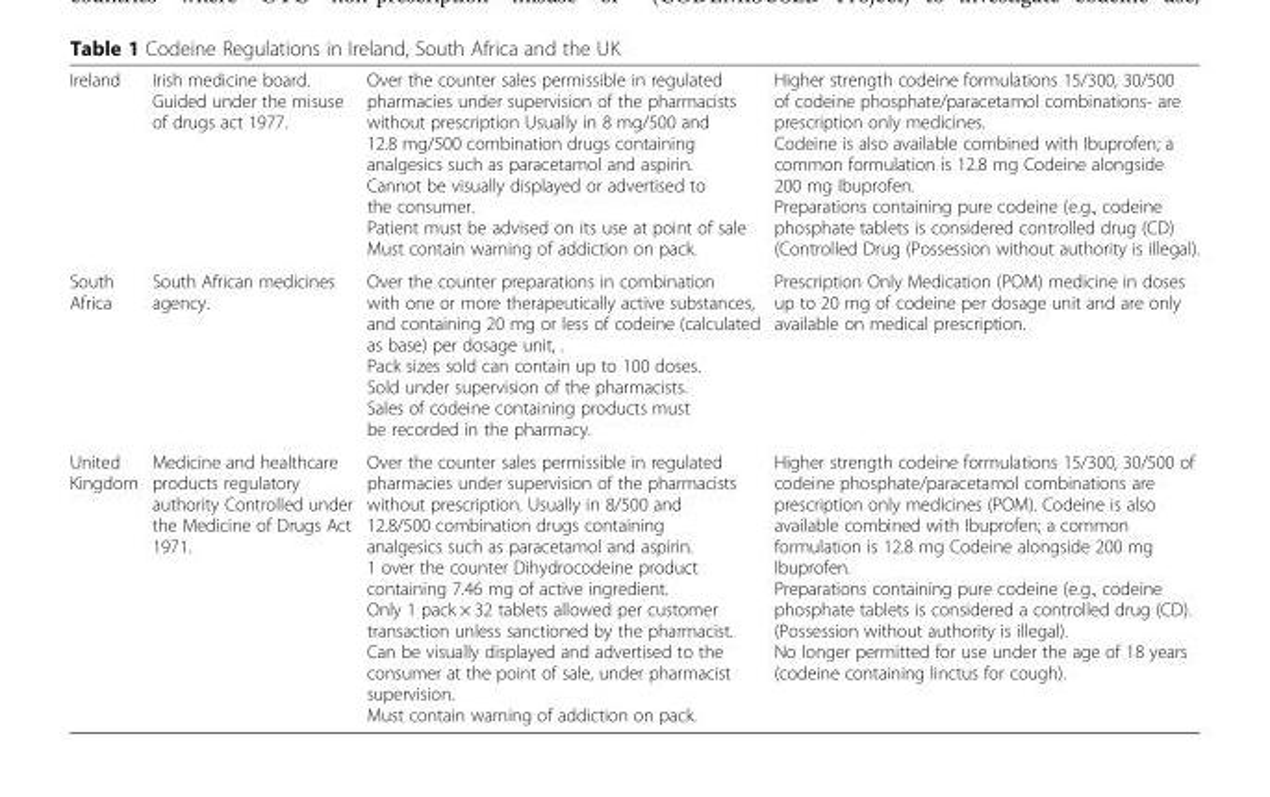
<table><tbody><tr><td>Ireland</td><td>Irish medicine board. Guided under the misuse of drugs act 1977.</td><td>Over the counter sales permissible in regulated pharmacies under supervision of the pharmacists without prescription Usually in 8 mg/500 and 12.8 mg/500 combination drugs containing analgesics such as paracetamol and aspirin. Cannot be visually displayed or advertised to the consumer. Patient must be advised on its use at point of sale Must contain warning of addiction on pack.</td><td>Higher strength codeine formulations 15/300, 30/500 of codeine phosphate/paracetamol combinations- are prescription only medicines. Codeine is also available combined with Ibuprofen; a common formulation is 12.8 mg Codeine alongside 200 mg Ibuprofen. Preparations containing pure codeine (e.g., codeine phosphate tablets is considered controlled drug (CD) (Controlled Drug (Possession without authority is illegal).</td></tr><tr><td>South Africa</td><td>South African medicines agency.</td><td>Over the counter preparations in combination with one or more therapeutically active substances, and containing 20 mg or less of codeine (calculated as base) per dosage unit, . Pack sizes sold can contain up to 100 doses. Sold under supervision of the pharmacists. Sales of codeine containing products must be recorded in the pharmacy.</td><td>Prescription Only Medication (POM) medicine in doses up to 20 mg of codeine per dosage unit and are only available on medical prescription.</td></tr><tr><td>United Kingdom</td><td>Medicine and healthcare products regulatory authority Controlled under the Medicine of Drugs Act 1971.</td><td>Over the counter sales permissible in regulated pharmacies under supervision of the pharmacists without prescription. Usually in 8/500 and 12.8/500 combination drugs containing analgesics such as paracetamol and aspirin. 1 over the counter Dihydrocodeine product containing 7.46 mg of active ingredient. Only 1 pack × 32 tablets allowed per customer transaction unless sanctioned by the pharmacist. Can be visually displayed and advertised to the consumer at the point of sale, under pharmacist supervision. Must contain warning of addiction on pack.</td><td>Higher strength codeine formulations 15/300, 30/500 of codeine phosphate/paracetamol combinations are prescription only medicines (POM). Codeine is also available combined with Ibuprofen; a common formulation is 12.8 mg Codeine alongside 200 mg Ibuprofen. Preparations containing pure codeine (e.g., codeine phosphate tablets is considered a controlled drug (CD). (Possession without authority is illegal). No longer permitted for use under the age of 18 years (codeine containing linctus for cough).</td></tr></tbody></table>